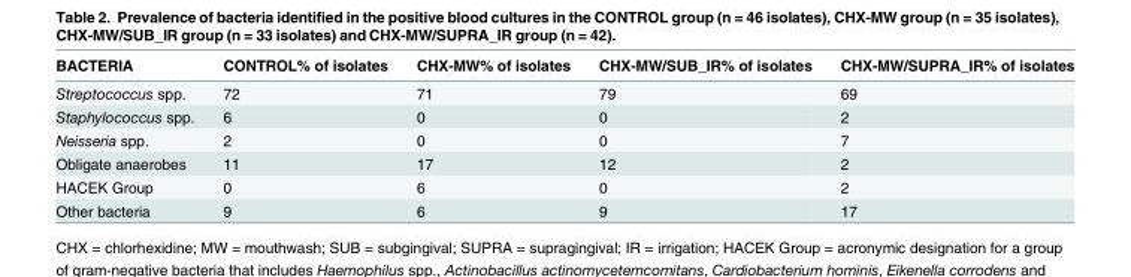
<table><thead><tr><td>BACTERIA</td><td>CONTROL% of isolates</td><td>CHX-MW% of isolates</td><td>CHX-MW/SUB_IR% of isolates</td><td>CHX-MW/SUPRA_IR% of isolates</td></tr></thead><tbody><tr><td>Streptococcus spp.</td><td>72</td><td>71</td><td>79</td><td>69</td></tr><tr><td>Staphylococcus spp.</td><td>6</td><td>0</td><td>0</td><td>2</td></tr><tr><td>Neisseria spp.</td><td>2</td><td>0</td><td>0</td><td>7</td></tr><tr><td>Obligate anaerobes</td><td>11</td><td>17</td><td>12</td><td>2</td></tr><tr><td>HACEK Group</td><td>0</td><td>6</td><td>0</td><td>2</td></tr><tr><td>Other bacteria</td><td>9</td><td>6</td><td>9</td><td>17</td></tr></tbody></table>